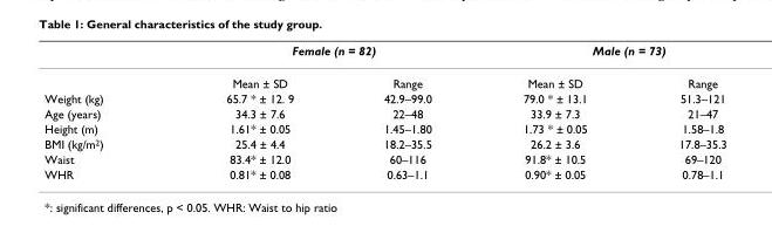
<table><thead><tr><td rowspan="2"></td><td colspan="2">Female (n = 82)</td><td colspan="2">Male (n = 73)</td></tr><tr><td>Mean ± SD</td><td>Range</td><td>Mean ± SD</td><td>Range</td></tr></thead><tbody><tr><td>Weight (kg)</td><td>65.7 * ± 12. 9</td><td>42.9–99.0</td><td>79.0 * ± 13.1</td><td>51.3–121</td></tr><tr><td>Age (years)</td><td>34.3 ± 7.6</td><td>22–48</td><td>33.9 ± 7.3</td><td>21–47</td></tr><tr><td>Height (m)</td><td>1.61* ± 0.05</td><td>1.45–1.80</td><td>1.73 * ± 0.05</td><td>1.58–1.8</td></tr><tr><td>BMI (kg/m<sup>2</sup>)</td><td>25.4 ± 4.4</td><td>18.2–35.5</td><td>26.2 ± 3.6</td><td>17.8–35.3</td></tr><tr><td>Waist</td><td>83.4* ± 12.0</td><td>60–116</td><td>91.8* ± 10.5</td><td>69–120</td></tr><tr><td>WHR</td><td>0.81* ± 0.08</td><td>0.63–1.1</td><td>0.90* ± 0.05</td><td>0.78–1.1</td></tr></tbody></table>